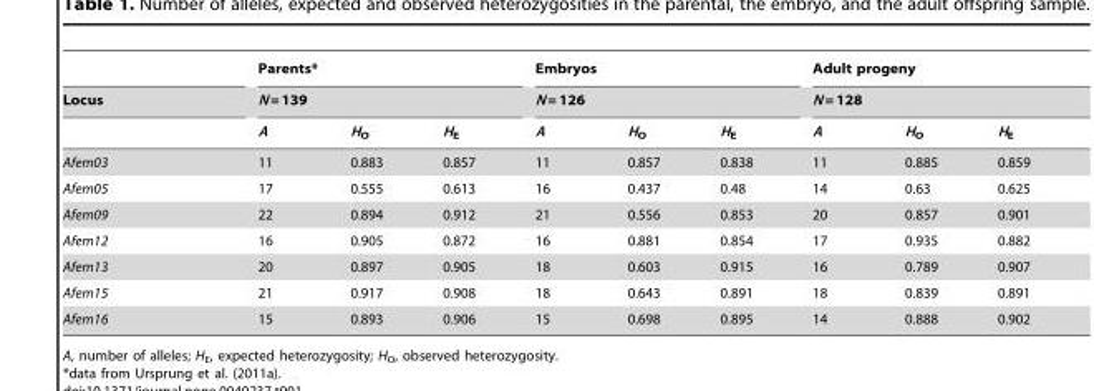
<table><thead><tr><td rowspan="3">Locus</td><td rowspan="2" colspan="3">Parents* N = 139</td><td rowspan="2" colspan="3">Embryos N = 126</td><td rowspan="2" colspan="3">Adult progeny N = 128</td></tr><tr></tr><tr><td>A</td><td>H<sub>O</sub></td><td>H<sub>E</sub></td><td>A</td><td>H<sub>O</sub></td><td>H<sub>E</sub></td><td>A</td><td>H<sub>O</sub></td><td>H<sub>E</sub></td></tr></thead><tbody><tr><td>Afem03</td><td>11</td><td>0.883</td><td>0.857</td><td>11</td><td>0.857</td><td>0.838</td><td>11</td><td>0.885</td><td>0.859</td></tr><tr><td>Afem05</td><td>17</td><td>0.555</td><td>0.613</td><td>16</td><td>0.437</td><td>0.48</td><td>14</td><td>0.63</td><td>0.625</td></tr><tr><td>Afem09</td><td>22</td><td>0.894</td><td>0.912</td><td>21</td><td>0.556</td><td>0.853</td><td>20</td><td>0.857</td><td>0.901</td></tr><tr><td>Afem12</td><td>16</td><td>0.905</td><td>0.872</td><td>16</td><td>0.881</td><td>0.854</td><td>17</td><td>0.935</td><td>0.882</td></tr><tr><td>Afem13</td><td>20</td><td>0.897</td><td>0.905</td><td>18</td><td>0.603</td><td>0.915</td><td>16</td><td>0.789</td><td>0.907</td></tr><tr><td>Afem15</td><td>21</td><td>0.917</td><td>0.908</td><td>18</td><td>0.643</td><td>0.891</td><td>18</td><td>0.839</td><td>0.891</td></tr><tr><td>Afem16</td><td>15</td><td>0.893</td><td>0.906</td><td>15</td><td>0.698</td><td>0.895</td><td>14</td><td>0.888</td><td>0.902</td></tr></tbody></table>